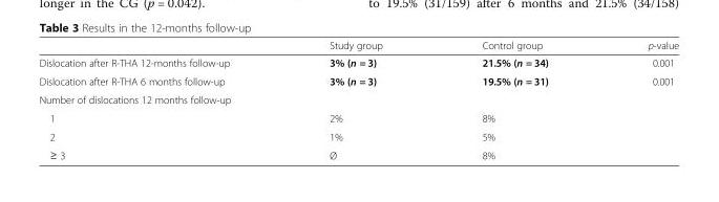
<table><thead><tr><td></td><td>Study group</td><td>Control group</td><td>p-value</td></tr></thead><tbody><tr><td>Dislocation after R-THA 12-months follow-up</td><td>3% (n = 3)</td><td>21.5% (n = 34)</td><td>0.001</td></tr><tr><td>Dislocation after R-THA 6 months follow-up</td><td>3% (n = 3)</td><td>19.5% (n = 31)</td><td>0.001</td></tr><tr><td colspan="4">Number of dislocations 12 months follow-up</td></tr><tr><td>1</td><td>2%</td><td>8%</td><td></td></tr><tr><td>2</td><td>1%</td><td>5%</td><td></td></tr><tr><td>≥ 3</td><td>Ø</td><td>8%</td><td></td></tr></tbody></table>